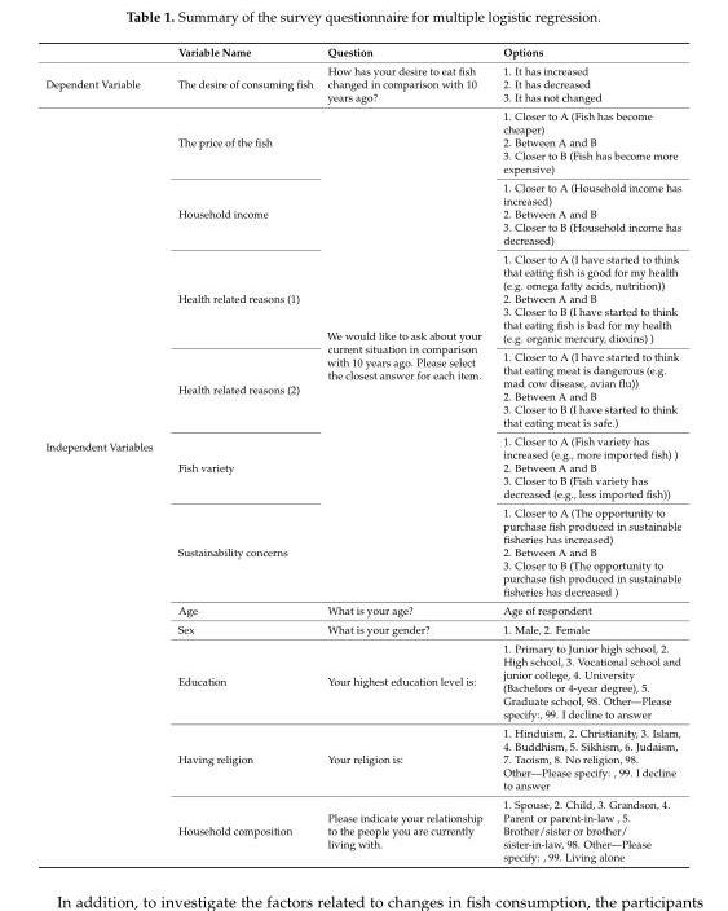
<table><thead><tr><td></td><td>Variable Name</td><td>Question</td><td>Options</td></tr></thead><tbody><tr><td>Dependent Variable</td><td>The desire of consuming fish</td><td>How has your desire to eat fish changed in comparison with 10 years ago?</td><td>1. It has increased 2. It has decreased 3. It has not changed</td></tr><tr><td rowspan="11">Independent Variables</td><td>The price of the fish</td><td rowspan="6">We would like to ask about your current situation in comparison with 10 years ago. Please select the closest answer for each item.</td><td>1. Closer to A (Fish has become cheaper) 2. Between A and B 3. Closer to B (Fish has become more expensive)</td></tr><tr><td>Household income</td><td>1. Closer to A (Household income has increased) 2. Between A and B 3. Closer to B (Household income has decreased)</td></tr><tr><td>Health related reasons (1)</td><td>1. Closer to A (I have started to think that eating fish is good for my health (e.g. omega fatty acids, nutrition)) 2. Between A and B 3. Closer to B (I have started to think that eating fish is bad for my health (e.g. organic mercury, dioxins) )</td></tr><tr><td>Health related reasons (2)</td><td>1. Closer to A (I have started to think that eating meat is dangerous (e.g. mad cow disease, avian flu)) 2. Between A and B 3. Closer to B (I have started to think that eating meat is safe.)</td></tr><tr><td>Fish variety</td><td>1. Closer to A (Fish variety has increased (e.g., more imported fish) ) 2. Between A and B 3. Closer to B (Fish variety has decreased (e.g., less imported fish))</td></tr><tr><td>Sustainability concerns</td><td>1. Closer to A (The opportunity to purchase fish produced in sustainable fisheries has increased) 2. Between A and B 3. Closer to B (The opportunity to purchase fish produced in sustainable fisheries has decreased )</td></tr><tr><td>Age</td><td>What is your age?</td><td>Age of respondent</td></tr><tr><td>Sex</td><td>What is your gender?</td><td>1. Male, 2. Female</td></tr><tr><td>Education</td><td>Your highest education level is:</td><td>1. Primary to Junior high school, 2. High school, 3. Vocational school and junior college, 4. University (Bachelors or 4-year degree), 5. Graduate school, 98. Other—Please specify:, 99. I decline to answer</td></tr><tr><td>Having religion</td><td>Your religion is:</td><td>1. Hinduism, 2. Christianity, 3. Islam, 4. Buddhism, 5. Sikhism, 6. Judaism, 7. Taoism, 8. No religion, 98. Other—Please specify: , 99. I decline to answer</td></tr><tr><td>Household composition</td><td>Please indicate your relationship to the people you are currently living with.</td><td>1. Spouse, 2. Child, 3. Grandson, 4. Parent or parent-in-law , 5. Brother/sister or brother/ sister-in-law, 98. Other—Please specify: , 99. Living alone</td></tr></tbody></table>